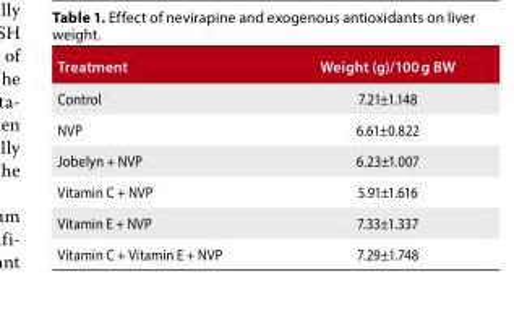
<table><thead><tr><td>Treatment</td><td>Weight (g)/100 g BW</td></tr></thead><tbody><tr><td>Control</td><td>7.21±1.148</td></tr><tr><td>NVP</td><td>6.61±0.822</td></tr><tr><td>Jobelyn + NVP</td><td>6.23±1.007</td></tr><tr><td>Vitamin C + NVP</td><td>5.91±1.616</td></tr><tr><td>Vitamin E + NVP</td><td>7.33±1.337</td></tr><tr><td>Vitamin C + Vitamin E + NVP</td><td>7.29±1.748</td></tr></tbody></table>